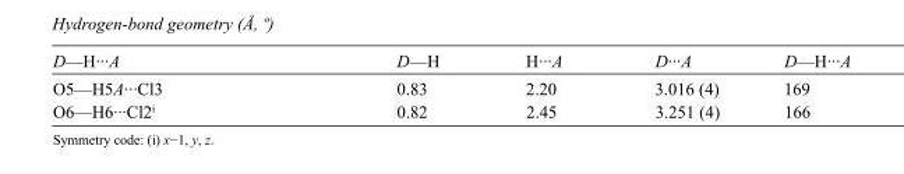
<table><tbody><tr><td>D—H···A</td><td>D—H</td><td>H···A</td><td>D···A</td><td>D—H···A</td></tr><tr><td>O5—H5A···Cl3</td><td>0.83</td><td>2.20</td><td>3.016 (4)</td><td>169</td></tr><tr><td>O6—H6···Cl2<sup>i</sup></td><td>0.82</td><td>2.45</td><td>3.251 (4)</td><td>166</td></tr></tbody></table>